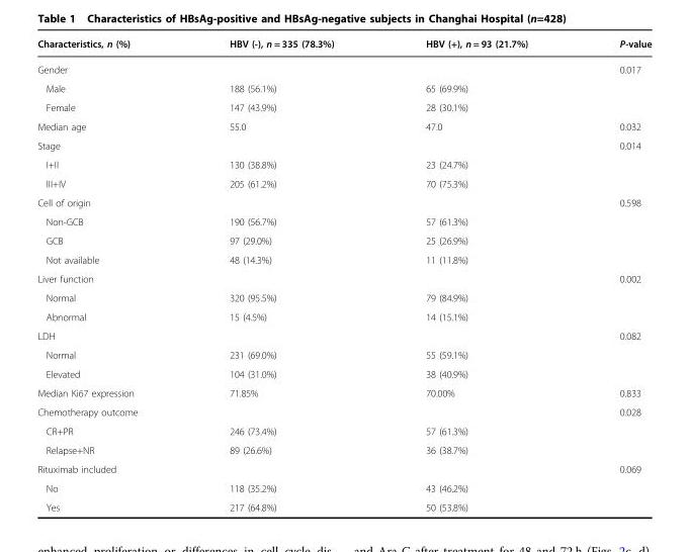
<table><thead><tr><td>Characteristics, n (%)</td><td>HBV (-), n = 335 (78.3%)</td><td>HBV (+), n = 93 (21.7%)</td><td>P-value</td></tr></thead><tbody><tr><td>Gender</td><td></td><td></td><td>0.017</td></tr><tr><td>Male</td><td>188 (56.1%)</td><td>65 (69.9%)</td><td></td></tr><tr><td>Female</td><td>147 (43.9%)</td><td>28 (30.1%)</td><td></td></tr><tr><td>Median age</td><td>55.0</td><td>47.0</td><td>0.032</td></tr><tr><td>Stage</td><td></td><td></td><td>0.014</td></tr><tr><td>I+II</td><td>130 (38.8%)</td><td>23 (24.7%)</td><td></td></tr><tr><td>III+IV</td><td>205 (61.2%)</td><td>70 (75.3%)</td><td></td></tr><tr><td>Cell of origin</td><td></td><td></td><td>0.598</td></tr><tr><td>Non-GCB</td><td>190 (56.7%)</td><td>57 (61.3%)</td><td></td></tr><tr><td>GCB</td><td>97 (29.0%)</td><td>25 (26.9%)</td><td></td></tr><tr><td>Not available</td><td>48 (14.3%)</td><td>11 (11.8%)</td><td></td></tr><tr><td>Liver function</td><td></td><td></td><td>0.002</td></tr><tr><td>Normal</td><td>320 (95.5%)</td><td>79 (84.9%)</td><td></td></tr><tr><td>Abnormal</td><td>15 (4.5%)</td><td>14 (15.1%)</td><td></td></tr><tr><td>LDH</td><td></td><td></td><td>0.082</td></tr><tr><td>Normal</td><td>231 (69.0%)</td><td>55 (59.1%)</td><td></td></tr><tr><td>Elevated</td><td>104 (31.0%)</td><td>38 (40.9%)</td><td></td></tr><tr><td>Median Ki67 expression</td><td>71.85%</td><td>70.00%</td><td>0.833</td></tr><tr><td>Chemotherapy outcome</td><td></td><td></td><td>0.028</td></tr><tr><td>CR+PR</td><td>246 (73.4%)</td><td>57 (61.3%)</td><td></td></tr><tr><td>Relapse+NR</td><td>89 (26.6%)</td><td>36 (38.7%)</td><td></td></tr><tr><td>Rituximab included</td><td></td><td></td><td>0.069</td></tr><tr><td>No</td><td>118 (35.2%)</td><td>43 (46.2%)</td><td></td></tr><tr><td>Yes</td><td>217 (64.8%)</td><td>50 (53.8%)</td><td></td></tr></tbody></table>